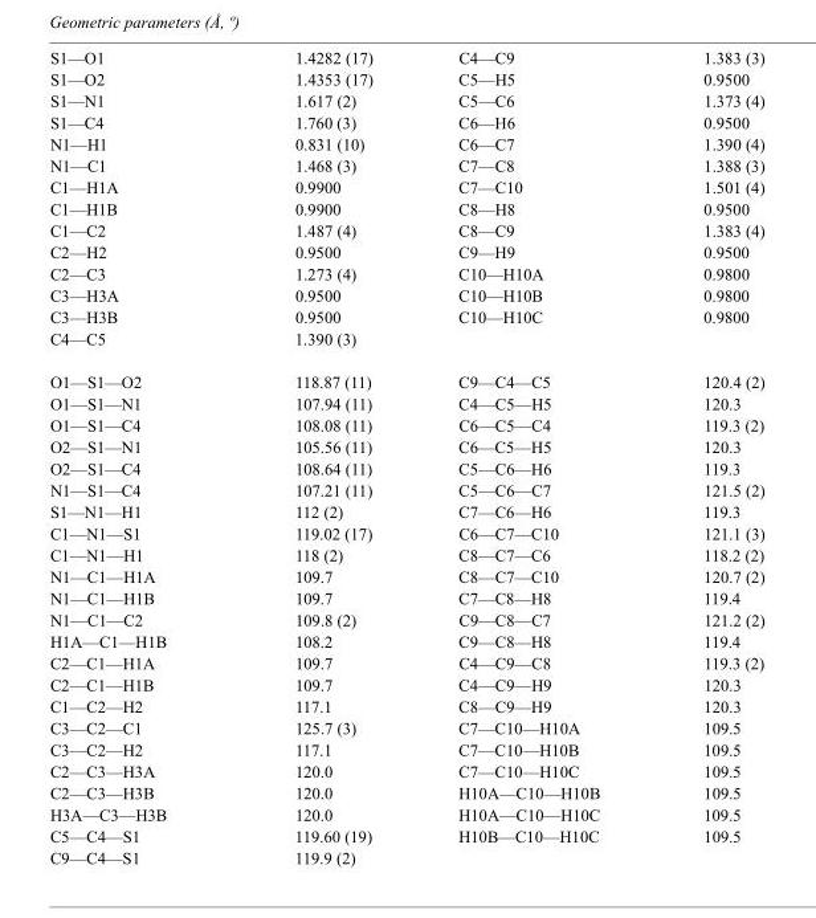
<table><tbody><tr><td>S1—O1</td><td>1.4282 (17)</td><td>C4—C9</td><td>1.383 (3)</td></tr><tr><td>S1—O2</td><td>1.4353 (17)</td><td>C5—H5</td><td>0.9500</td></tr><tr><td>S1—N1</td><td>1.617 (2)</td><td>C5—C6</td><td>1.373 (4)</td></tr><tr><td>S1—C4</td><td>1.760 (3)</td><td>C6—H6</td><td>0.9500</td></tr><tr><td>N1—H1</td><td>0.831 (10)</td><td>C6—C7</td><td>1.390 (4)</td></tr><tr><td>N1—C1</td><td>1.468 (3)</td><td>C7—C8</td><td>1.388 (3)</td></tr><tr><td>C1—H1A</td><td>0.9900</td><td>C7—C10</td><td>1.501 (4)</td></tr><tr><td>C1—H1B</td><td>0.9900</td><td>C8—H8</td><td>0.9500</td></tr><tr><td>C1—C2</td><td>1.487 (4)</td><td>C8—C9</td><td>1.383 (4)</td></tr><tr><td>C2—H2</td><td>0.9500</td><td>C9—H9</td><td>0.9500</td></tr><tr><td>C2—C3</td><td>1.273 (4)</td><td>C10—H10A</td><td>0.9800</td></tr><tr><td>C3—H3A</td><td>0.9500</td><td>C10—H10B</td><td>0.9800</td></tr><tr><td>C3—H3B</td><td>0.9500</td><td>C10—H10C</td><td>0.9800</td></tr><tr><td>C4—C5</td><td>1.390 (3)</td><td></td><td></td></tr><tr><td>O1—S1—O2</td><td>118.87 (11)</td><td>C9—C4—C5</td><td>120.4 (2)</td></tr><tr><td>O1—S1—N1</td><td>107.94 (11)</td><td>C4—C5—H5</td><td>120.3</td></tr><tr><td>O1—S1—C4</td><td>108.08 (11)</td><td>C6—C5—C4</td><td>119.3 (2)</td></tr><tr><td>O2—S1—N1</td><td>105.56 (11)</td><td>C6—C5—H5</td><td>120.3</td></tr><tr><td>O2—S1—C4</td><td>108.64 (11)</td><td>C5—C6—H6</td><td>119.3</td></tr><tr><td>N1—S1—C4</td><td>107.21 (11)</td><td>C5—C6—C7</td><td>121.5 (2)</td></tr><tr><td>S1—N1—H1</td><td>112 (2)</td><td>C7—C6—H6</td><td>119.3</td></tr><tr><td>C1—N1—S1</td><td>119.02 (17)</td><td>C6—C7—C10</td><td>121.1 (3)</td></tr><tr><td>C1—N1—H1</td><td>118 (2)</td><td>C8—C7—C6</td><td>118.2 (2)</td></tr><tr><td>N1—C1—H1A</td><td>109.7</td><td>C8—C7—C10</td><td>120.7 (2)</td></tr><tr><td>N1—C1—H1B</td><td>109.7</td><td>C7—C8—H8</td><td>119.4</td></tr><tr><td>N1—C1—C2</td><td>109.8 (2)</td><td>C9—C8—C7</td><td>121.2 (2)</td></tr><tr><td>H1A—C1—H1B</td><td>108.2</td><td>C9—C8—H8</td><td>119.4</td></tr><tr><td>C2—C1—H1A</td><td>109.7</td><td>C4—C9—C8</td><td>119.3 (2)</td></tr><tr><td>C2—C1—H1B</td><td>109.7</td><td>C4—C9—H9</td><td>120.3</td></tr><tr><td>C1—C2—H2</td><td>117.1</td><td>C8—C9—H9</td><td>120.3</td></tr><tr><td>C3—C2—C1</td><td>125.7 (3)</td><td>C7—C10—H10A</td><td>109.5</td></tr><tr><td>C3—C2—H2</td><td>117.1</td><td>C7—C10—H10B</td><td>109.5</td></tr><tr><td>C2—C3—H3A</td><td>120.0</td><td>C7—C10—H10C</td><td>109.5</td></tr><tr><td>C2—C3—H3B</td><td>120.0</td><td>H10A—C10—H10B</td><td>109.5</td></tr><tr><td>H3A—C3—H3B</td><td>120.0</td><td>H10A—C10—H10C</td><td>109.5</td></tr><tr><td>C5—C4—S1</td><td>119.60 (19)</td><td>H10B—C10—H10C</td><td>109.5</td></tr><tr><td>C9—C4—S1</td><td>119.9 (2)</td><td></td><td></td></tr></tbody></table>